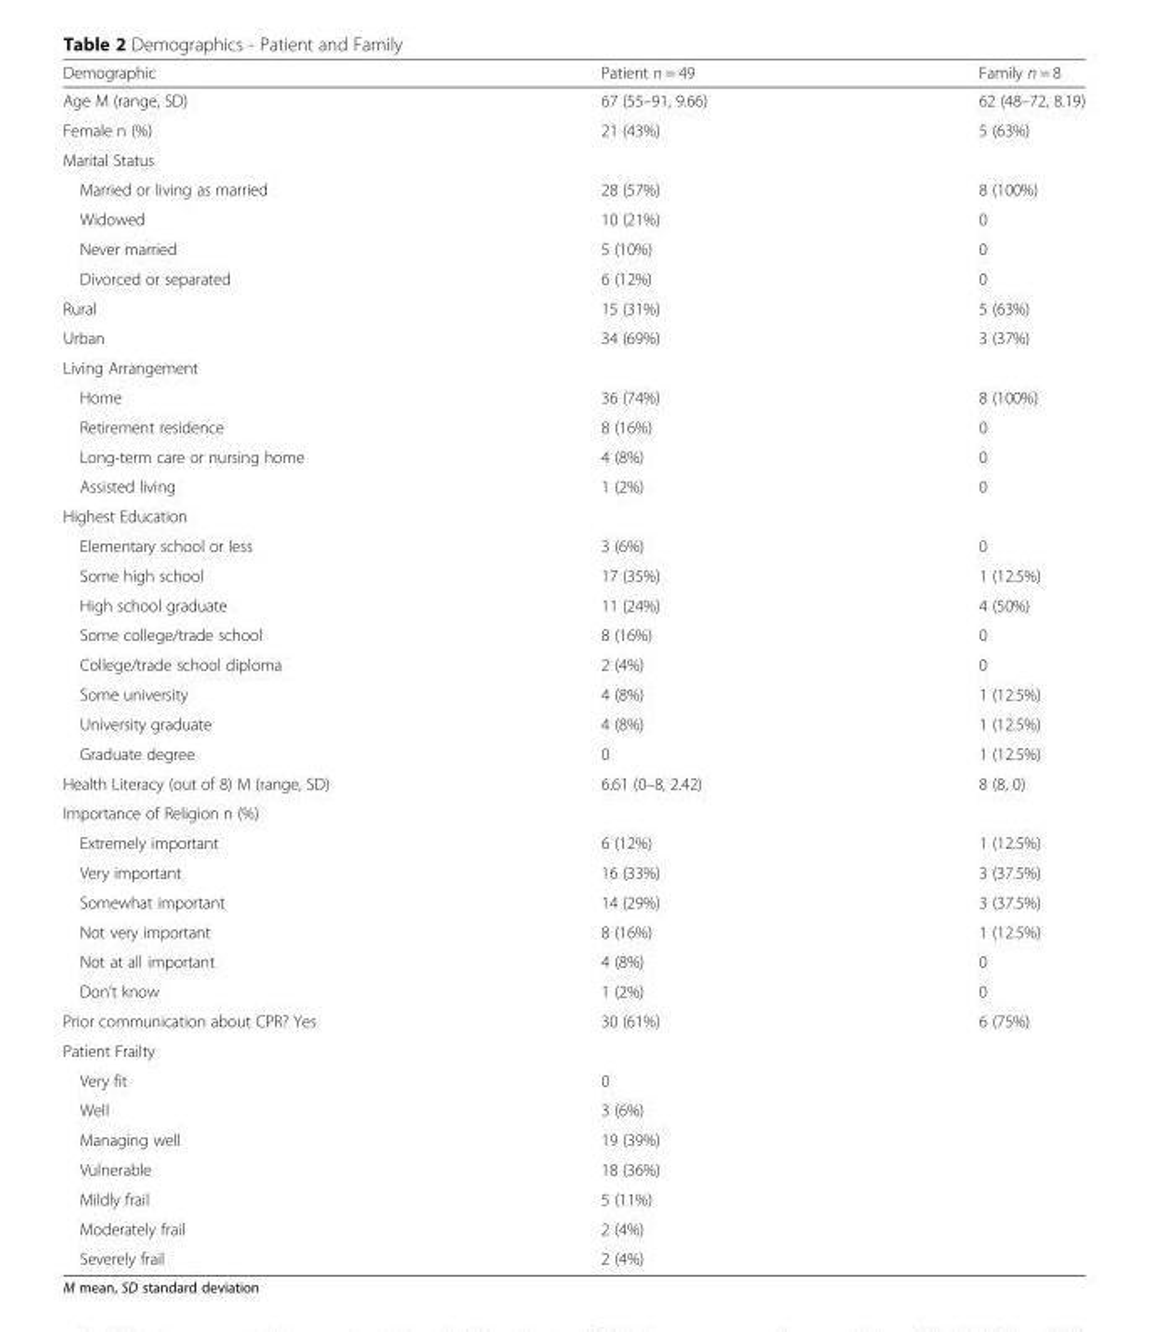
<table><thead><tr><td>Demographic</td><td>Patient n = 49</td><td>Family n = 8</td></tr></thead><tbody><tr><td>Age M (range, SD)</td><td>67 (55–91, 9.66)</td><td>62 (48–72, 8.19)</td></tr><tr><td>Female n (%)</td><td>21 (43%)</td><td>5 (63%)</td></tr><tr><td colspan="3">Marital Status</td></tr><tr><td>Married or living as married</td><td>28 (57%)</td><td>8 (100%)</td></tr><tr><td>Widowed</td><td>10 (21%)</td><td>0</td></tr><tr><td>Never married</td><td>5 (10%)</td><td>0</td></tr><tr><td>Divorced or separated</td><td>6 (12%)</td><td>0</td></tr><tr><td>Rural</td><td>15 (31%)</td><td>5 (63%)</td></tr><tr><td>Urban</td><td>34 (69%)</td><td>3 (37%)</td></tr><tr><td colspan="3">Living Arrangement</td></tr><tr><td>Home</td><td>36 (74%)</td><td>8 (100%)</td></tr><tr><td>Retirement residence</td><td>8 (16%)</td><td>0</td></tr><tr><td>Long-term care or nursing home</td><td>4 (8%)</td><td>0</td></tr><tr><td>Assisted living</td><td>1 (2%)</td><td>0</td></tr><tr><td colspan="3">Highest Education</td></tr><tr><td>Elementary school or less</td><td>3 (6%)</td><td>0</td></tr><tr><td>Some high school</td><td>17 (35%)</td><td>1 (12.5%)</td></tr><tr><td>High school graduate</td><td>11 (24%)</td><td>4 (50%)</td></tr><tr><td>Some college/trade school</td><td>8 (16%)</td><td>0</td></tr><tr><td>College/trade school diploma</td><td>2 (4%)</td><td>0</td></tr><tr><td>Some university</td><td>4 (8%)</td><td>1 (12.5%)</td></tr><tr><td>University graduate</td><td>4 (8%)</td><td>1 (12.5%)</td></tr><tr><td>Graduate degree</td><td>0</td><td>1 (12.5%)</td></tr><tr><td>Health Literacy (out of 8) M (range, SD)</td><td>6.61 (0–8, 2.42)</td><td>8 (8, 0)</td></tr><tr><td colspan="3">Importance of Religion n (%)</td></tr><tr><td>Extremely important</td><td>6 (12%)</td><td>1 (12.5%)</td></tr><tr><td>Very important</td><td>16 (33%)</td><td>3 (37.5%)</td></tr><tr><td>Somewhat important</td><td>14 (29%)</td><td>3 (37.5%)</td></tr><tr><td>Not very important</td><td>8 (16%)</td><td>1 (12.5%)</td></tr><tr><td>Not at all important</td><td>4 (8%)</td><td>0</td></tr><tr><td>Don’t know</td><td>1 (2%)</td><td>0</td></tr><tr><td>Prior communication about CPR? Yes</td><td>30 (61%)</td><td>6 (75%)</td></tr><tr><td colspan="3">Patient Frailty</td></tr><tr><td>Very fit</td><td>0</td><td></td></tr><tr><td>Well</td><td>3 (6%)</td><td></td></tr><tr><td>Managing well</td><td>19 (39%)</td><td></td></tr><tr><td>Vulnerable</td><td>18 (36%)</td><td></td></tr><tr><td>Mildly frail</td><td>5 (11%)</td><td></td></tr><tr><td>Moderately frail</td><td>2 (4%)</td><td></td></tr><tr><td>Severely frail</td><td>2 (4%)</td><td></td></tr></tbody></table>